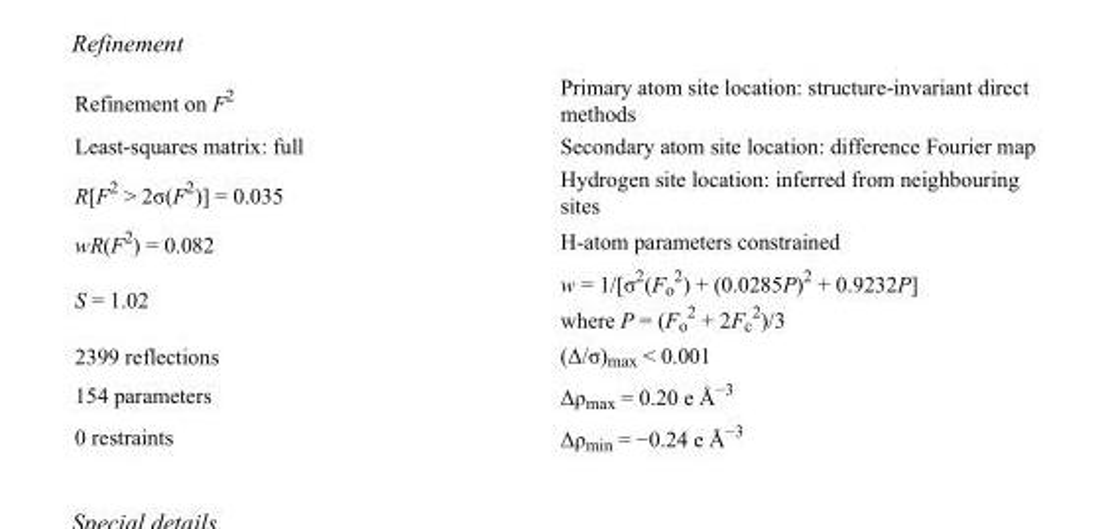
<table><tbody><tr><td>Refinement on F<sup>2</sup></td><td>Primary atom site location: structure-invariant direct methods</td></tr><tr><td>Least-squares matrix: full</td><td>Secondary atom site location: difference Fourier map</td></tr><tr><td>R[F<sup>2</sup> &gt; 2σ(F<sup>2</sup>)] = 0.035</td><td>Hydrogen site location: inferred from neighbouring sites</td></tr><tr><td>wR(F<sup>2</sup>) = 0.082</td><td>H-atom parameters constrained</td></tr><tr><td>S = 1.02</td><td>w = 1/[σ<sup>2</sup>(F<sub>o</sub> <sup>2</sup>) + (0.0285P)<sup>2</sup> + 0.9232P] where P = (F<sub>o</sub> <sup>2</sup> + 2F<sub>c</sub> <sup>2</sup>)/3</td></tr><tr><td>2399 reflections</td><td>(Δ/σ)<sub>max</sub> &lt; 0.001</td></tr><tr><td>154 parameters</td><td>Δρ<sub>max</sub> = 0.20 e Å<sup>−3</sup></td></tr><tr><td>0 restraints</td><td>Δρ<sub>min</sub> = −0.24 e Å<sup>−3</sup></td></tr></tbody></table>